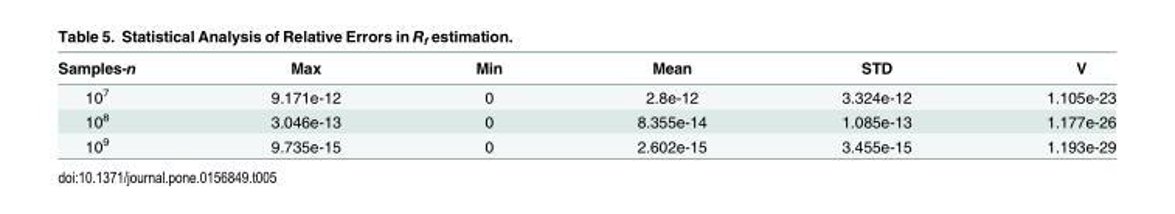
<table><thead><tr><td>Samples-n</td><td>Max</td><td>Min</td><td>Mean</td><td>STD</td><td>V</td></tr></thead><tbody><tr><td>10<sup>7</sup></td><td>9.171e-12</td><td>0</td><td>2.8e-12</td><td>3.324e-12</td><td>1.105e-23</td></tr><tr><td>10<sup>8</sup></td><td>3.046e-13</td><td>0</td><td>8.355e-14</td><td>1.085e-13</td><td>1.177e-26</td></tr><tr><td>10<sup>9</sup></td><td>9.735e-15</td><td>0</td><td>2.602e-15</td><td>3.455e-15</td><td>1.193e-29</td></tr></tbody></table>